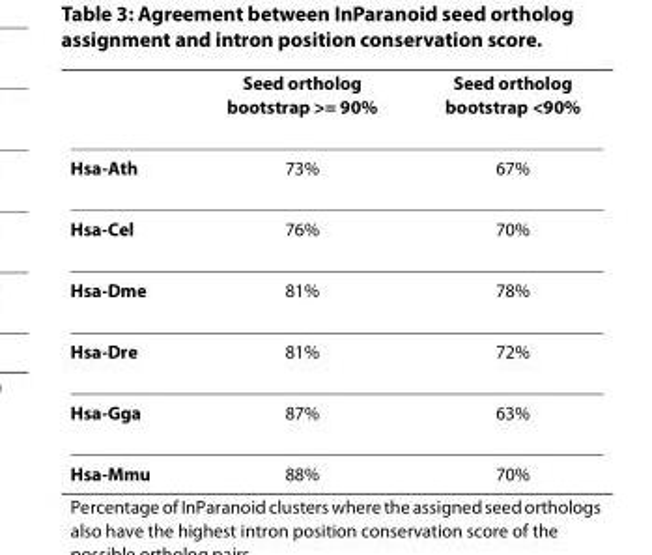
<table><thead><tr><td></td><td>Seed ortholog bootstrap &gt;= 90%</td><td>Seed ortholog bootstrap &lt;90%</td></tr></thead><tbody><tr><td>Hsa-Ath</td><td>73%</td><td>67%</td></tr><tr><td>Hsa-Cel</td><td>76%</td><td>70%</td></tr><tr><td>Hsa-Dme</td><td>81%</td><td>78%</td></tr><tr><td>Hsa-Dre</td><td>81%</td><td>72%</td></tr><tr><td>Hsa-Gga</td><td>87%</td><td>63%</td></tr><tr><td>Hsa-Mmu</td><td>88%</td><td>70%</td></tr></tbody></table>